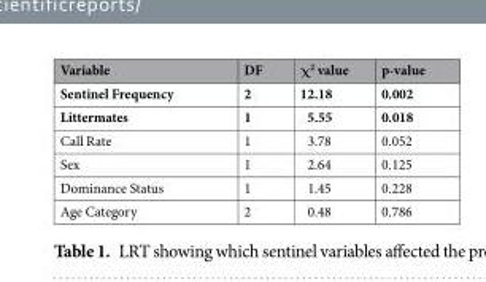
<table><thead><tr><td>Variable</td><td>DF</td><td>χ<sup>2</sup> value</td><td>p-value</td></tr></thead><tbody><tr><td>Sentinel Frequency</td><td>2</td><td>12.18</td><td>0.002</td></tr><tr><td>Littermates</td><td>1</td><td>5.55</td><td>0.018</td></tr><tr><td>Call Rate</td><td>1</td><td>3.78</td><td>0.052</td></tr><tr><td>Sex</td><td>1</td><td>2.64</td><td>0.125</td></tr><tr><td>Dominance Status</td><td>1</td><td>1.45</td><td>0.228</td></tr><tr><td>Age Category</td><td>2</td><td>0.48</td><td>0.786</td></tr></tbody></table>